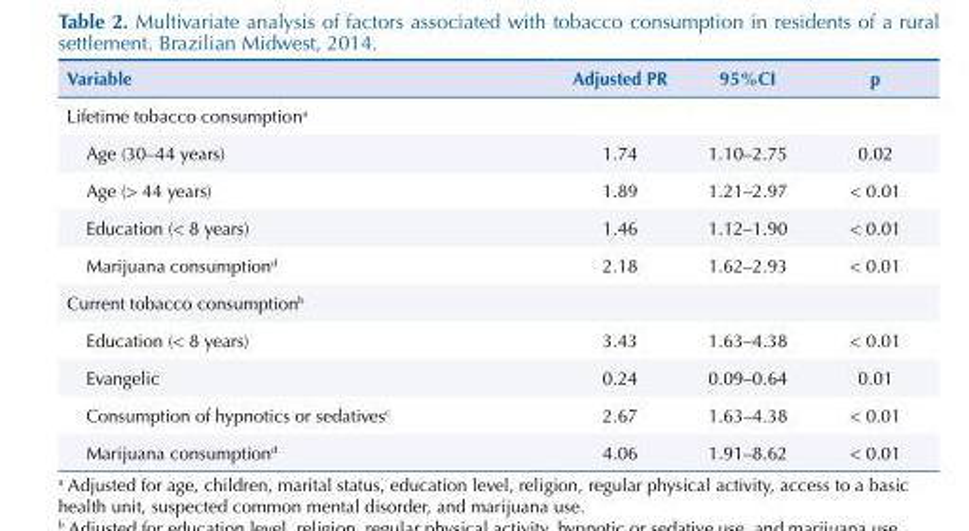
<table><thead><tr><td>Variable</td><td>Adjusted PR</td><td>95%CI</td><td>p</td></tr></thead><tbody><tr><td colspan="4">Lifetime tobacco consumption<sup>a</sup></td></tr><tr><td>Age (30–44 years)</td><td>1.74</td><td>1.10–2.75</td><td>0.02</td></tr><tr><td>Age (&gt; 44 years)</td><td>1.89</td><td>1.21–2.97</td><td>&lt; 0.01</td></tr><tr><td>Education (&lt; 8 years)</td><td>1.46</td><td>1.12–1.90</td><td>&lt; 0.01</td></tr><tr><td>Marijuana consumption<sup>d</sup></td><td>2.18</td><td>1.62–2.93</td><td>&lt; 0.01</td></tr><tr><td colspan="4">Current tobacco consumption<sup>b</sup></td></tr><tr><td>Education (&lt; 8 years)</td><td>3.43</td><td>1.63–4.38</td><td>&lt; 0.01</td></tr><tr><td>Evangelic</td><td>0.24</td><td>0.09–0.64</td><td>0.01</td></tr><tr><td>Consumption of hypnotics or sedatives<sup>c</sup></td><td>2.67</td><td>1.63–4.38</td><td>&lt; 0.01</td></tr><tr><td>Marijuana consumption<sup>d</sup></td><td>4.06</td><td>1.91–8.62</td><td>&lt; 0.01</td></tr></tbody></table>